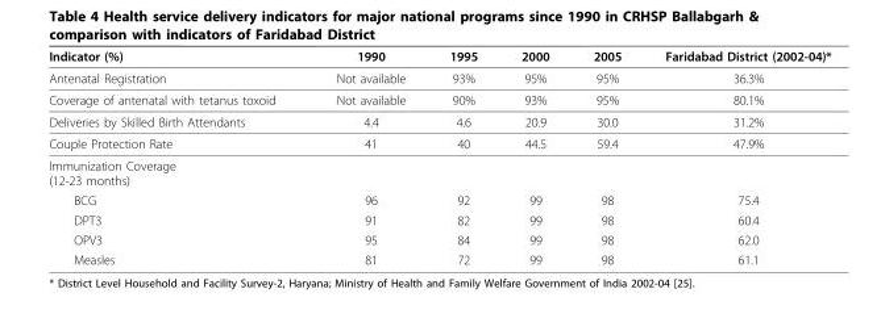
<table><thead><tr><td>Indicator (%)</td><td>1990</td><td>1995</td><td>2000</td><td>2005</td><td>Faridabad District (2002-04)*</td></tr></thead><tbody><tr><td>Antenatal Registration</td><td>Not available</td><td>93%</td><td>95%</td><td>95%</td><td>36.3%</td></tr><tr><td>Coverage of antenatal with tetanus toxoid</td><td>Not available</td><td>90%</td><td>93%</td><td>95%</td><td>80.1%</td></tr><tr><td>Deliveries by Skilled Birth Attendants</td><td>4.4</td><td>4.6</td><td>20.9</td><td>30.0</td><td>31.2%</td></tr><tr><td>Couple Protection Rate</td><td>41</td><td>40</td><td>44.5</td><td>59.4</td><td>47.9%</td></tr><tr><td colspan="6">Immunization Coverage (12-23 months)</td></tr><tr><td>BCG</td><td>96</td><td>92</td><td>99</td><td>98</td><td>75.4</td></tr><tr><td>DPT3</td><td>91</td><td>82</td><td>99</td><td>98</td><td>60.4</td></tr><tr><td>OPV3</td><td>95</td><td>84</td><td>99</td><td>98</td><td>62.0</td></tr><tr><td>Measles</td><td>81</td><td>72</td><td>99</td><td>98</td><td>61.1</td></tr></tbody></table>